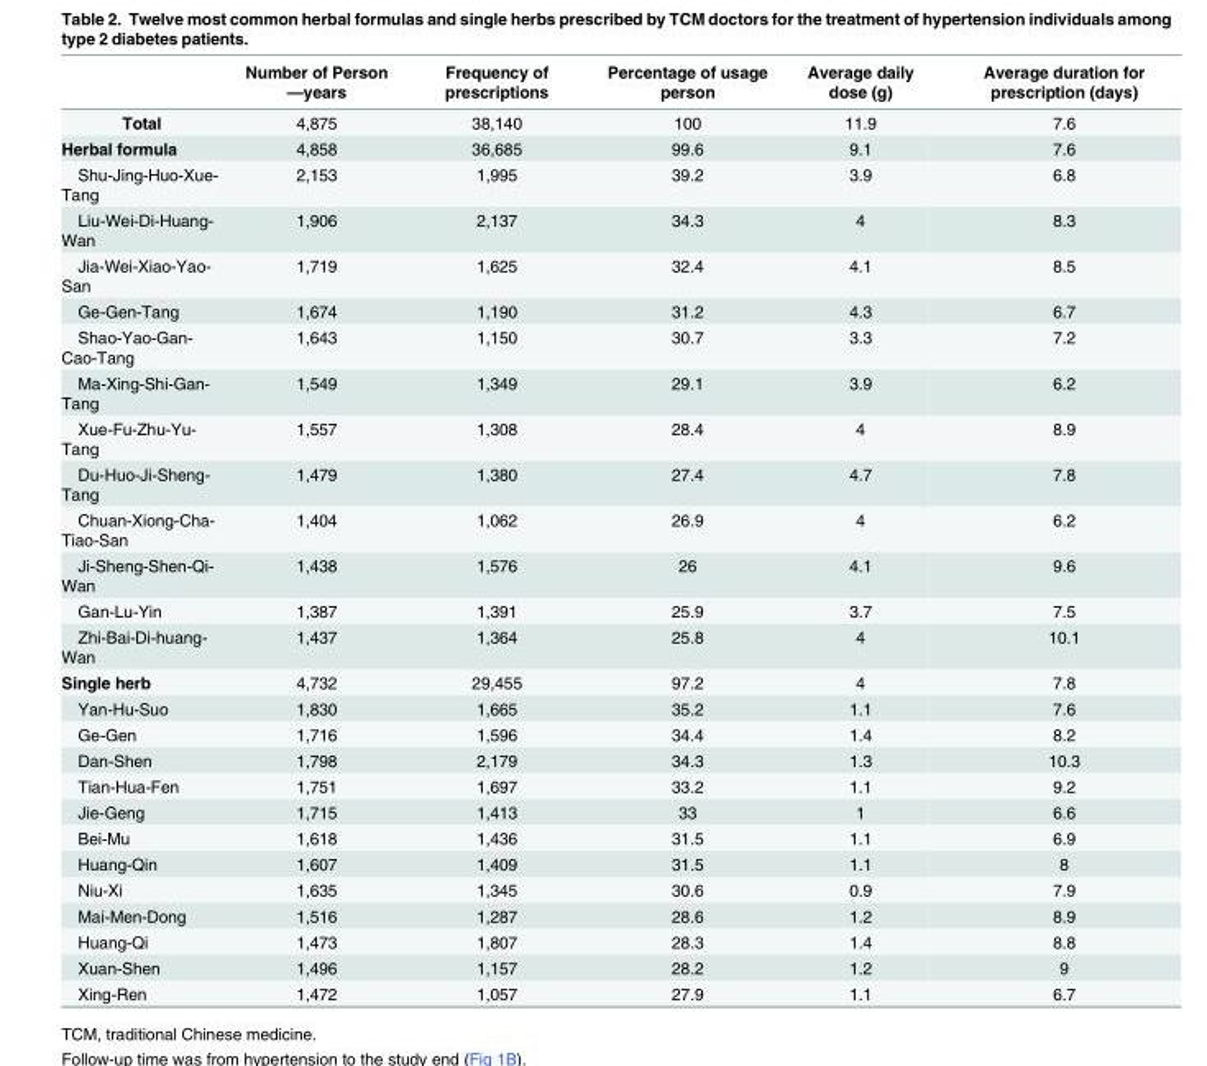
<table><thead><tr><td></td><td>Number of Person —years</td><td>Frequency of prescriptions</td><td>Percentage of usage person</td><td>Average daily dose (g)</td><td>Average duration for prescription (days)</td></tr></thead><tbody><tr><td>Total</td><td>4,875</td><td>38,140</td><td>100</td><td>11.9</td><td>7.6</td></tr><tr><td>Herbal formula</td><td>4,858</td><td>36,685</td><td>99.6</td><td>9.1</td><td>7.6</td></tr><tr><td>Shu-Jing-Huo-Xue- Tang</td><td>2,153</td><td>1,995</td><td>39.2</td><td>3.9</td><td>6.8</td></tr><tr><td>Liu-Wei-Di-Huang- Wan</td><td>1,906</td><td>2,137</td><td>34.3</td><td>4</td><td>8.3</td></tr><tr><td>Jia-Wei-Xiao-Yao- San</td><td>1,719</td><td>1,625</td><td>32.4</td><td>4.1</td><td>8.5</td></tr><tr><td>Ge-Gen-Tang</td><td>1,674</td><td>1,190</td><td>31.2</td><td>4.3</td><td>6.7</td></tr><tr><td>Shao-Yao-Gan- Cao-Tang</td><td>1,643</td><td>1,150</td><td>30.7</td><td>3.3</td><td>7.2</td></tr><tr><td>Ma-Xing-Shi-Gan- Tang</td><td>1,549</td><td>1,349</td><td>29.1</td><td>3.9</td><td>6.2</td></tr><tr><td>Xue-Fu-Zhu-Yu- Tang</td><td>1,557</td><td>1,308</td><td>28.4</td><td>4</td><td>8.9</td></tr><tr><td>Du-Huo-Ji-Sheng- Tang</td><td>1,479</td><td>1,380</td><td>27.4</td><td>4.7</td><td>7.8</td></tr><tr><td>Chuan-Xiong-Cha- Tiao-San</td><td>1,404</td><td>1,062</td><td>26.9</td><td>4</td><td>6.2</td></tr><tr><td>Ji-Sheng-Shen-Qi- Wan</td><td>1,438</td><td>1,576</td><td>26</td><td>4.1</td><td>9.6</td></tr><tr><td>Gan-Lu-Yin</td><td>1,387</td><td>1,391</td><td>25.9</td><td>3.7</td><td>7.5</td></tr><tr><td>Zhi-Bai-Di-huang- Wan</td><td>1,437</td><td>1,364</td><td>25.8</td><td>4</td><td>10.1</td></tr><tr><td>Single herb</td><td>4,732</td><td>29,455</td><td>97.2</td><td>4</td><td>7.8</td></tr><tr><td>Yan-Hu-Suo</td><td>1,830</td><td>1,665</td><td>35.2</td><td>1.1</td><td>7.6</td></tr><tr><td>Ge-Gen</td><td>1,716</td><td>1,596</td><td>34.4</td><td>1.4</td><td>8.2</td></tr><tr><td>Dan-Shen</td><td>1,798</td><td>2,179</td><td>34.3</td><td>1.3</td><td>10.3</td></tr><tr><td>Tian-Hua-Fen</td><td>1,751</td><td>1,697</td><td>33.2</td><td>1.1</td><td>9.2</td></tr><tr><td>Jie-Geng</td><td>1,715</td><td>1,413</td><td>33</td><td>1</td><td>6.6</td></tr><tr><td>Bei-Mu</td><td>1,618</td><td>1,436</td><td>31.5</td><td>1.1</td><td>6.9</td></tr><tr><td>Huang-Qin</td><td>1,607</td><td>1,409</td><td>31.5</td><td>1.1</td><td>8</td></tr><tr><td>Niu-Xi</td><td>1,635</td><td>1,345</td><td>30.6</td><td>0.9</td><td>7.9</td></tr><tr><td>Mai-Men-Dong</td><td>1,516</td><td>1,287</td><td>28.6</td><td>1.2</td><td>8.9</td></tr><tr><td>Huang-Qi</td><td>1,473</td><td>1,807</td><td>28.3</td><td>1.4</td><td>8.8</td></tr><tr><td>Xuan-Shen</td><td>1,496</td><td>1,157</td><td>28.2</td><td>1.2</td><td>9</td></tr><tr><td>Xing-Ren</td><td>1,472</td><td>1,057</td><td>27.9</td><td>1.1</td><td>6.7</td></tr></tbody></table>